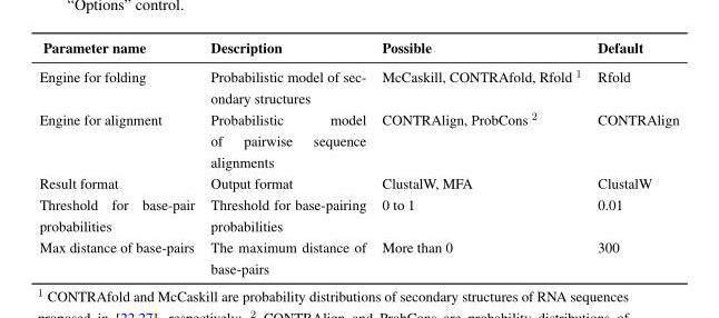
<table><thead><tr><td>Parameter name</td><td>Description</td><td>Possible</td><td>Default</td></tr></thead><tbody><tr><td>Engine for folding</td><td>Probabilistic model of sec- ondary structures</td><td>McCaskill, CONTRAfold, Rfold 1</td><td>Rfold</td></tr><tr><td>Engine for alignment</td><td>Probabilistic model of pairwise sequence alignments</td><td>CONTRAlign, ProbCons 2</td><td>CONTRAlign</td></tr><tr><td>Result format</td><td>Output format</td><td>ClustalW, MFA</td><td>ClustalW</td></tr><tr><td>Threshold for base-pair probabilities</td><td>Threshold for base-pairing probabilities</td><td>0 to 1</td><td>0.01</td></tr><tr><td>Max distance of base-pairs</td><td>The maximum distance of base-pairs</td><td>More than 0</td><td>300</td></tr></tbody></table>